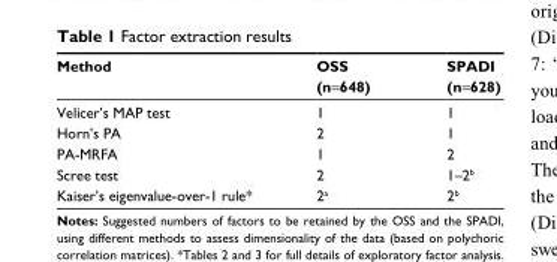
<table><thead><tr><td>Method</td><td>OSS (n=648)</td><td>SPADI (n=628)</td></tr></thead><tbody><tr><td>Velicer’s MAP test</td><td>1</td><td>1</td></tr><tr><td>Horn’s PA</td><td>2</td><td>1</td></tr><tr><td>PA-MRFA</td><td>1</td><td>2</td></tr><tr><td>Scree test</td><td>2</td><td>1–2<sup>b</sup></td></tr><tr><td>Kaiser’s eigenvalue-over-1 rule*</td><td>2<sup>a</sup></td><td>2<sup>b</sup></td></tr></tbody></table>